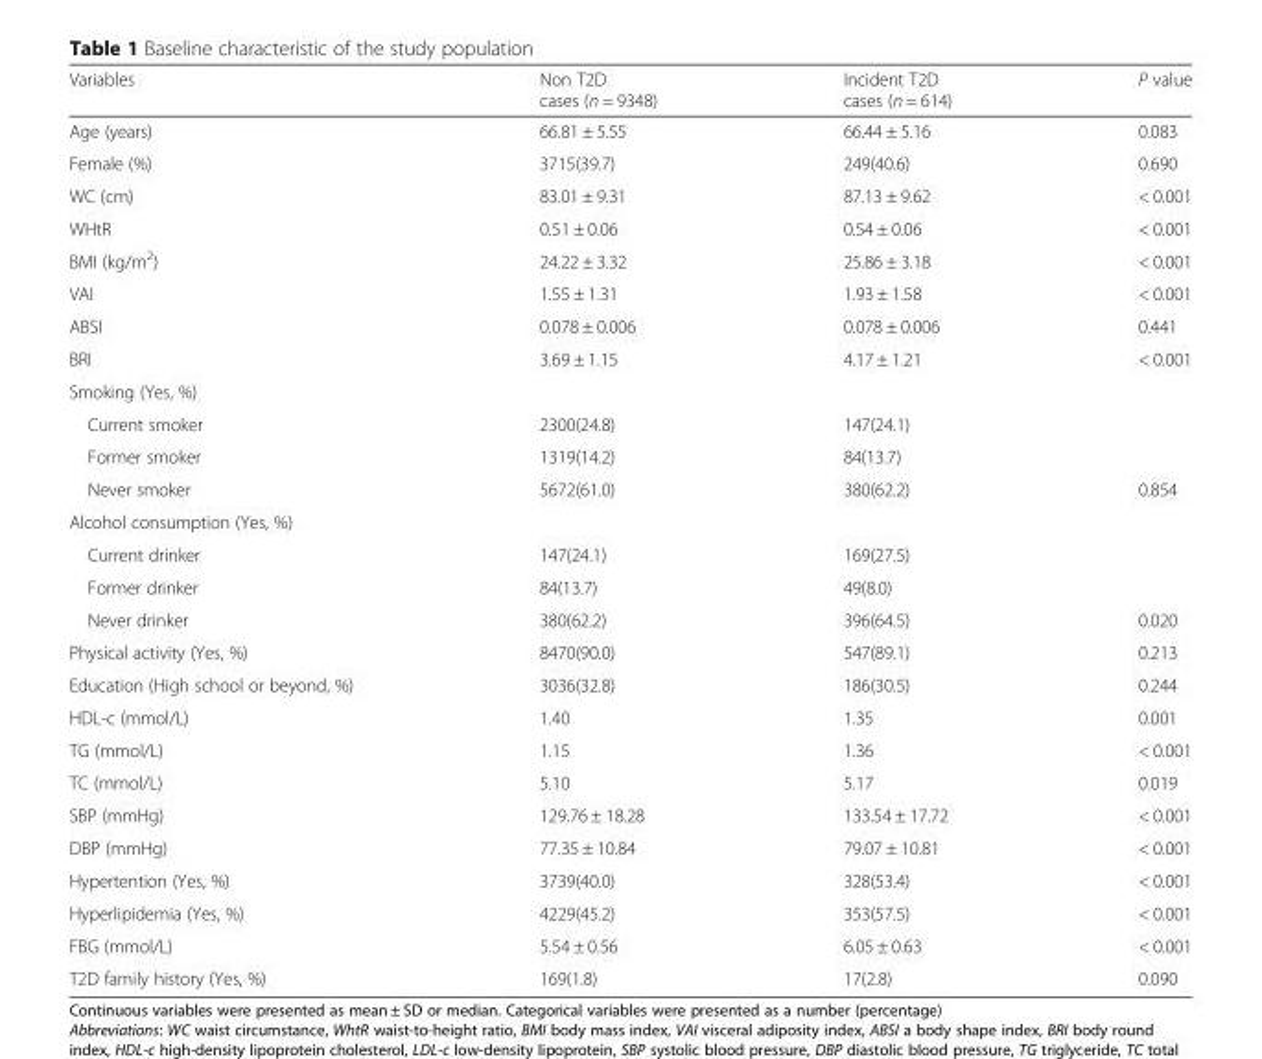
<table><thead><tr><td>Variables</td><td>Non T2D cases (n = 9348)</td><td>Incident T2D cases (n = 614)</td><td>P value</td></tr></thead><tbody><tr><td>Age (years)</td><td>66.81 ± 5.55</td><td>66.44 ± 5.16</td><td>0.083</td></tr><tr><td>Female (%)</td><td>3715(39.7)</td><td>249(40.6)</td><td>0.690</td></tr><tr><td>WC (cm)</td><td>83.01 ± 9.31</td><td>87.13 ± 9.62</td><td>&lt; 0.001</td></tr><tr><td>WHtR</td><td>0.51 ± 0.06</td><td>0.54 ± 0.06</td><td>&lt; 0.001</td></tr><tr><td>BMI (kg/m<sup>2</sup>)</td><td>24.22 ± 3.32</td><td>25.86 ± 3.18</td><td>&lt; 0.001</td></tr><tr><td>VAI</td><td>1.55 ± 1.31</td><td>1.93 ± 1.58</td><td>&lt; 0.001</td></tr><tr><td>ABSI</td><td>0.078 ± 0.006</td><td>0.078 ± 0.006</td><td>0.441</td></tr><tr><td>BRI</td><td>3.69 ± 1.15</td><td>4.17 ± 1.21</td><td>&lt; 0.001</td></tr><tr><td colspan="4">Smoking (Yes, %)</td></tr><tr><td>Current smoker</td><td>2300(24.8)</td><td>147(24.1)</td><td></td></tr><tr><td>Former smoker</td><td>1319(14.2)</td><td>84(13.7)</td><td></td></tr><tr><td>Never smoker</td><td>5672(61.0)</td><td>380(62.2)</td><td>0.854</td></tr><tr><td colspan="4">Alcohol consumption (Yes, %)</td></tr><tr><td>Current drinker</td><td>147(24.1)</td><td>169(27.5)</td><td></td></tr><tr><td>Former drinker</td><td>84(13.7)</td><td>49(8.0)</td><td></td></tr><tr><td>Never drinker</td><td>380(62.2)</td><td>396(64.5)</td><td>0.020</td></tr><tr><td>Physical activity (Yes, %)</td><td>8470(90.0)</td><td>547(89.1)</td><td>0.213</td></tr><tr><td>Education (High school or beyond, %)</td><td>3036(32.8)</td><td>186(30.5)</td><td>0.244</td></tr><tr><td>HDL-c (mmol/L)</td><td>1.40</td><td>1.35</td><td>0.001</td></tr><tr><td>TG (mmol/L)</td><td>1.15</td><td>1.36</td><td>&lt; 0.001</td></tr><tr><td>TC (mmol/L)</td><td>5.10</td><td>5.17</td><td>0.019</td></tr><tr><td>SBP (mmHg)</td><td>129.76 ± 18.28</td><td>133.54 ± 17.72</td><td>&lt; 0.001</td></tr><tr><td>DBP (mmHg)</td><td>77.35 ± 10.84</td><td>79.07 ± 10.81</td><td>&lt; 0.001</td></tr><tr><td>Hypertention (Yes, %)</td><td>3739(40.0)</td><td>328(53.4)</td><td>&lt; 0.001</td></tr><tr><td>Hyperlipidemia (Yes, %)</td><td>4229(45.2)</td><td>353(57.5)</td><td>&lt; 0.001</td></tr><tr><td>FBG (mmol/L)</td><td>5.54 ± 0.56</td><td>6.05 ± 0.63</td><td>&lt; 0.001</td></tr><tr><td>T2D family history (Yes, %)</td><td>169(1.8)</td><td>17(2.8)</td><td>0.090</td></tr></tbody></table>